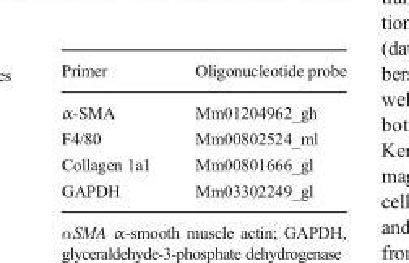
<table><thead><tr><td>Primer</td><td>Oligonucleotide probe</td></tr></thead><tbody><tr><td>α-SMA</td><td>Mm01204962_gh</td></tr><tr><td>F4/80</td><td>Mm00802524_ml</td></tr><tr><td>Collagen 1a1</td><td>Mm00801666_gl</td></tr><tr><td>GAPDH</td><td>Mm03302249_gl</td></tr></tbody></table>